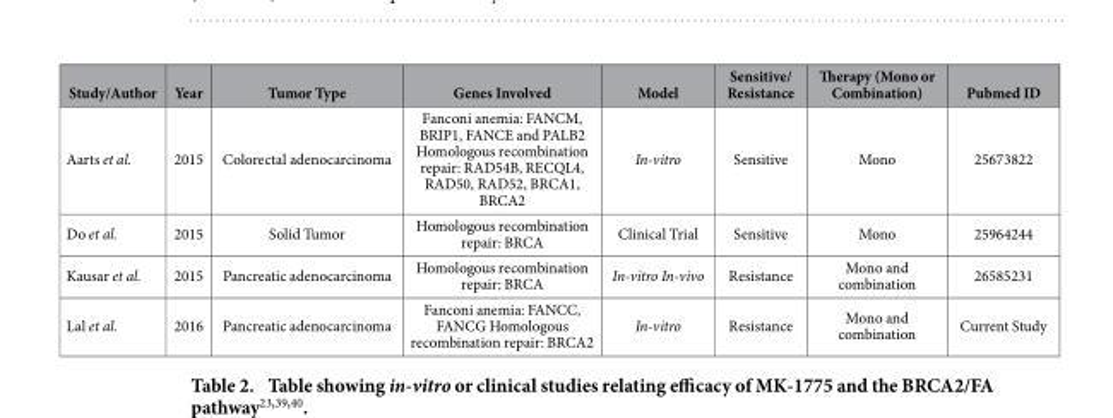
<table><thead><tr><td>Study/Author</td><td>Year</td><td>Tumor Type</td><td>Genes Involved</td><td>Model</td><td>Sensitive/ Resistance</td><td>Therapy (Mono or Combination)</td><td>Pubmed ID</td></tr></thead><tbody><tr><td>Aarts et al.</td><td>2015</td><td>Colorectal adenocarcinoma</td><td>Fanconi anemia: FANCM, BRIP1, FANCE and PALB2 Homologous recombination repair: RAD54B, RECQL4, RAD50, RAD52, BRCA1, BRCA2</td><td>In-vitro</td><td>Sensitive</td><td>Mono</td><td>25673822</td></tr><tr><td>Do et al.</td><td>2015</td><td>Solid Tumor</td><td>Homologous recombination repair: BRCA</td><td>Clinical Trial</td><td>Sensitive</td><td>Mono</td><td>25964244</td></tr><tr><td>Kausar et al.</td><td>2015</td><td>Pancreatic adenocarcinoma</td><td>Homologous recombination repair: BRCA</td><td>In-vitro In-vivo</td><td>Resistance</td><td>Mono and combination</td><td>26585231</td></tr><tr><td>Lal et al.</td><td>2016</td><td>Pancreatic adenocarcinoma</td><td>Fanconi anemia: FANCC, FANCG Homologous recombination repair: BRCA2</td><td>In-vitro</td><td>Resistance</td><td>Mono and combination</td><td>Current Study</td></tr></tbody></table>